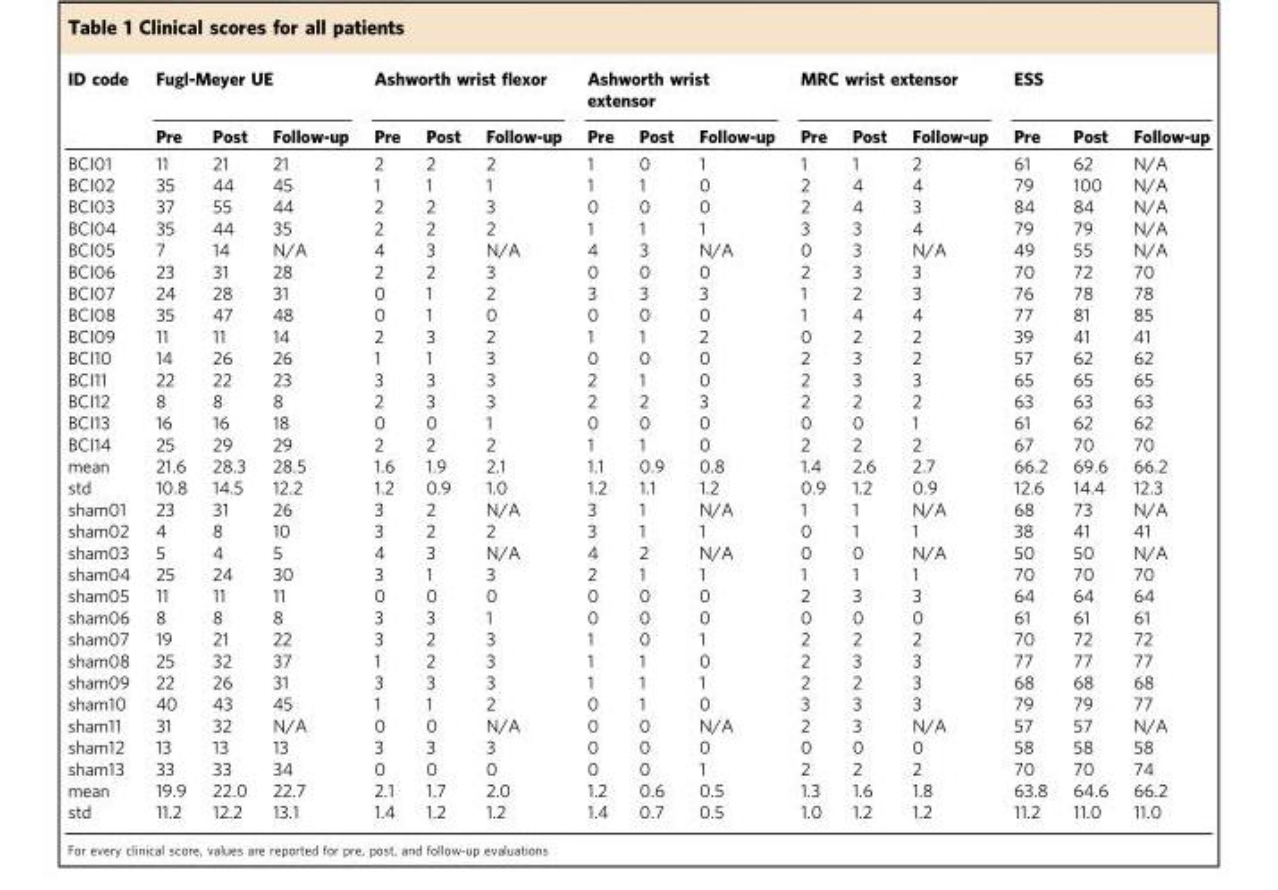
<table><thead><tr><td rowspan="2">ID code</td><td colspan="3">Fugl-Meyer UE</td><td colspan="3">Ashworth wrist flexor</td><td colspan="3">Ashworth wrist extensor</td><td colspan="3">MRC wrist extensor</td><td colspan="3">ESS</td></tr><tr><td>Pre</td><td>Post</td><td>Follow-up</td><td>Pre</td><td>Post</td><td>Follow-up</td><td>Pre</td><td>Post</td><td>Follow-up</td><td>Pre</td><td>Post</td><td>Follow-up</td><td>Pre</td><td>Post</td><td>Follow-up</td></tr></thead><tbody><tr><td>BCI01</td><td>11</td><td>21</td><td>21</td><td>2</td><td>2</td><td>2</td><td>1</td><td>0</td><td>1</td><td>1</td><td>1</td><td>2</td><td>61</td><td>62</td><td>N/A</td></tr><tr><td>BCI02</td><td>35</td><td>44</td><td>45</td><td>1</td><td>1</td><td>1</td><td>1</td><td>1</td><td>0</td><td>2</td><td>4</td><td>4</td><td>79</td><td>100</td><td>N/A</td></tr><tr><td>BCI03</td><td>37</td><td>55</td><td>44</td><td>2</td><td>2</td><td>3</td><td>0</td><td>0</td><td>0</td><td>2</td><td>4</td><td>3</td><td>84</td><td>84</td><td>N/A</td></tr><tr><td>BCI04</td><td>35</td><td>44</td><td>35</td><td>2</td><td>2</td><td>2</td><td>1</td><td>1</td><td>1</td><td>3</td><td>3</td><td>4</td><td>79</td><td>79</td><td>N/A</td></tr><tr><td>BCI05</td><td>7</td><td>14</td><td>N/A</td><td>4</td><td>3</td><td>N/A</td><td>4</td><td>3</td><td>N/A</td><td>0</td><td>3</td><td>N/A</td><td>49</td><td>55</td><td>N/A</td></tr><tr><td>BCI06</td><td>23</td><td>31</td><td>28</td><td>2</td><td>2</td><td>3</td><td>0</td><td>0</td><td>0</td><td>2</td><td>3</td><td>3</td><td>70</td><td>72</td><td>70</td></tr><tr><td>BCI07</td><td>24</td><td>28</td><td>31</td><td>0</td><td>1</td><td>2</td><td>3</td><td>3</td><td>3</td><td>1</td><td>2</td><td>3</td><td>76</td><td>78</td><td>78</td></tr><tr><td>BCI08</td><td>35</td><td>47</td><td>48</td><td>0</td><td>1</td><td>0</td><td>0</td><td>0</td><td>0</td><td>1</td><td>4</td><td>4</td><td>77</td><td>81</td><td>85</td></tr><tr><td>BCI09</td><td>11</td><td>11</td><td>14</td><td>2</td><td>3</td><td>2</td><td>1</td><td>1</td><td>2</td><td>0</td><td>2</td><td>2</td><td>39</td><td>41</td><td>41</td></tr><tr><td>BCI10</td><td>14</td><td>26</td><td>26</td><td>1</td><td>1</td><td>3</td><td>0</td><td>0</td><td>0</td><td>2</td><td>3</td><td>2</td><td>57</td><td>62</td><td>62</td></tr><tr><td>BCI11</td><td>22</td><td>22</td><td>23</td><td>3</td><td>3</td><td>3</td><td>2</td><td>1</td><td>0</td><td>2</td><td>3</td><td>3</td><td>65</td><td>65</td><td>65</td></tr><tr><td>BCI12</td><td>8</td><td>8</td><td>8</td><td>2</td><td>3</td><td>3</td><td>2</td><td>2</td><td>3</td><td>2</td><td>2</td><td>2</td><td>63</td><td>63</td><td>63</td></tr><tr><td>BCI13</td><td>16</td><td>16</td><td>18</td><td>0</td><td>0</td><td>1</td><td>0</td><td>0</td><td>0</td><td>0</td><td>0</td><td>1</td><td>61</td><td>62</td><td>62</td></tr><tr><td>BCI14</td><td>25</td><td>29</td><td>29</td><td>2</td><td>2</td><td>2</td><td>1</td><td>1</td><td>0</td><td>2</td><td>2</td><td>2</td><td>67</td><td>70</td><td>70</td></tr><tr><td>mean</td><td>21.6</td><td>28.3</td><td>28.5</td><td>1.6</td><td>1.9</td><td>2.1</td><td>1.1</td><td>0.9</td><td>0.8</td><td>1.4</td><td>2.6</td><td>2.7</td><td>66.2</td><td>69.6</td><td>66.2</td></tr><tr><td>std</td><td>10.8</td><td>14.5</td><td>12.2</td><td>1.2</td><td>0.9</td><td>1.0</td><td>1.2</td><td>1.1</td><td>1.2</td><td>0.9</td><td>1.2</td><td>0.9</td><td>12.6</td><td>14.4</td><td>12.3</td></tr><tr><td>sham01</td><td>23</td><td>31</td><td>26</td><td>3</td><td>2</td><td>N/A</td><td>3</td><td>1</td><td>N/A</td><td>1</td><td>1</td><td>N/A</td><td>68</td><td>73</td><td>N/A</td></tr><tr><td>sham02</td><td>4</td><td>8</td><td>10</td><td>3</td><td>2</td><td>2</td><td>3</td><td>1</td><td>1</td><td>0</td><td>1</td><td>1</td><td>38</td><td>41</td><td>41</td></tr><tr><td>sham03</td><td>5</td><td>4</td><td>5</td><td>4</td><td>3</td><td>N/A</td><td>4</td><td>2</td><td>N/A</td><td>0</td><td>0</td><td>N/A</td><td>50</td><td>50</td><td>N/A</td></tr><tr><td>sham04</td><td>25</td><td>24</td><td>30</td><td>3</td><td>1</td><td>3</td><td>2</td><td>1</td><td>1</td><td>1</td><td>1</td><td>1</td><td>70</td><td>70</td><td>70</td></tr><tr><td>sham05</td><td>11</td><td>11</td><td>11</td><td>0</td><td>0</td><td>0</td><td>0</td><td>0</td><td>0</td><td>2</td><td>3</td><td>3</td><td>64</td><td>64</td><td>64</td></tr><tr><td>sham06</td><td>8</td><td>8</td><td>8</td><td>3</td><td>3</td><td>1</td><td>0</td><td>0</td><td>0</td><td>0</td><td>0</td><td>0</td><td>61</td><td>61</td><td>61</td></tr><tr><td>sham07</td><td>19</td><td>21</td><td>22</td><td>3</td><td>2</td><td>3</td><td>1</td><td>0</td><td>1</td><td>2</td><td>2</td><td>2</td><td>70</td><td>72</td><td>72</td></tr><tr><td>sham08</td><td>25</td><td>32</td><td>37</td><td>1</td><td>2</td><td>3</td><td>1</td><td>1</td><td>0</td><td>2</td><td>3</td><td>3</td><td>77</td><td>77</td><td>77</td></tr><tr><td>sham09</td><td>22</td><td>26</td><td>31</td><td>3</td><td>3</td><td>3</td><td>1</td><td>1</td><td>1</td><td>2</td><td>2</td><td>3</td><td>68</td><td>68</td><td>68</td></tr><tr><td>sham10</td><td>40</td><td>43</td><td>45</td><td>1</td><td>1</td><td>2</td><td>0</td><td>1</td><td>0</td><td>3</td><td>3</td><td>3</td><td>79</td><td>79</td><td>77</td></tr><tr><td>sham11</td><td>31</td><td>32</td><td>N/A</td><td>0</td><td>0</td><td>N/A</td><td>0</td><td>0</td><td>N/A</td><td>2</td><td>3</td><td>N/A</td><td>57</td><td>57</td><td>N/A</td></tr><tr><td>sham12</td><td>13</td><td>13</td><td>13</td><td>3</td><td>3</td><td>3</td><td>0</td><td>0</td><td>0</td><td>0</td><td>0</td><td>0</td><td>58</td><td>58</td><td>58</td></tr><tr><td>sham13</td><td>33</td><td>33</td><td>34</td><td>0</td><td>0</td><td>0</td><td>0</td><td>0</td><td>1</td><td>2</td><td>2</td><td>2</td><td>70</td><td>70</td><td>74</td></tr><tr><td>mean</td><td>19.9</td><td>22.0</td><td>22.7</td><td>2.1</td><td>1.7</td><td>2.0</td><td>1.2</td><td>0.6</td><td>0.5</td><td>1.3</td><td>1.6</td><td>1.8</td><td>63.8</td><td>64.6</td><td>66.2</td></tr><tr><td>std</td><td>11.2</td><td>12.2</td><td>13.1</td><td>1.4</td><td>1.2</td><td>1.2</td><td>1.4</td><td>0.7</td><td>0.5</td><td>1.0</td><td>1.2</td><td>1.2</td><td>11.2</td><td>11.0</td><td>11.0</td></tr></tbody></table>